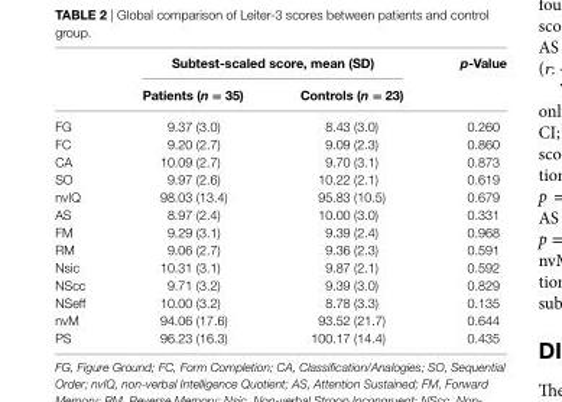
<table><thead><tr><td rowspan="2"></td><td colspan="2">subtest-scaled score, mean (sD)</td><td rowspan="2">p-Value</td></tr><tr><td>Patients (n = 35)</td><td>controls (n = 23)</td></tr></thead><tbody><tr><td>FG</td><td>9.37 (3.0)</td><td>8.43 (3.0)</td><td>0.260</td></tr><tr><td>FC</td><td>9.20 (2.7)</td><td>9.09 (2.3)</td><td>0.860</td></tr><tr><td>CA</td><td>10.09 (2.7)</td><td>9.70 (3.1)</td><td>0.873</td></tr><tr><td>SO</td><td>9.97 (2.6)</td><td>10.22 (2.1)</td><td>0.619</td></tr><tr><td>nvIQ</td><td>98.03 (13.4)</td><td>95.83 (10.5)</td><td>0.679</td></tr><tr><td>AS</td><td>8.97 (2.4)</td><td>10.00 (3.0)</td><td>0.331</td></tr><tr><td>FM</td><td>9.29 (3.1)</td><td>9.39 (2.4)</td><td>0.968</td></tr><tr><td>RM</td><td>9.06 (2.7)</td><td>9.36 (2.3)</td><td>0.591</td></tr><tr><td>Nsic</td><td>10.31 (3.1)</td><td>9.87 (2.1)</td><td>0.592</td></tr><tr><td>NScc</td><td>9.71 (3.2)</td><td>9.39 (3.0)</td><td>0.829</td></tr><tr><td>NSeff</td><td>10.00 (3.2)</td><td>8.78 (3.3)</td><td>0.135</td></tr><tr><td>nvM</td><td>94.06 (17.6)</td><td>93.52 (21.7)</td><td>0.644</td></tr><tr><td>PS</td><td>96.23 (16.3)</td><td>100.17 (14.4)</td><td>0.435</td></tr></tbody></table>